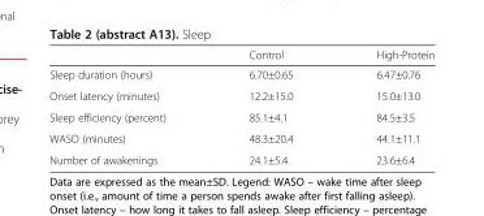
<table><thead><tr><td></td><td>Control</td><td>High-Protein</td></tr></thead><tbody><tr><td>Sleep duration (hours)</td><td>6.70±0.65</td><td>6.47±0.76</td></tr><tr><td>Onset latency (minutes)</td><td>12.2±15.0</td><td>15.0±13.0</td></tr><tr><td>Sleep efficiency (percent)</td><td>85.1±4.1</td><td>84.5±3.5</td></tr><tr><td>WASO (minutes)</td><td>48.3±20.4</td><td>44.1±11.1</td></tr><tr><td>Number of awakenings</td><td>24.1±5.4</td><td>23.6±6.4</td></tr></tbody></table>